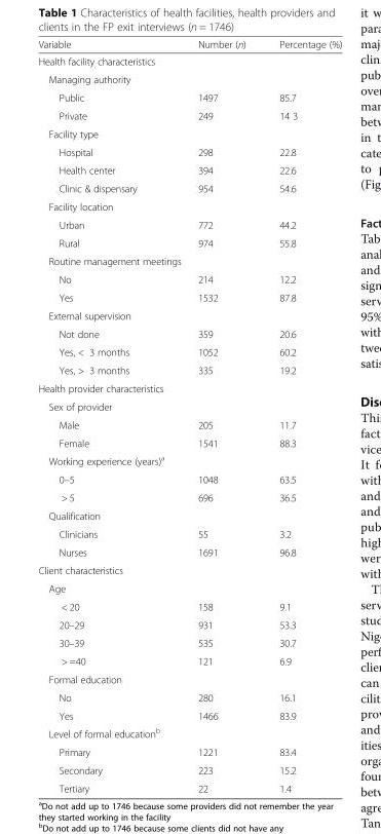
<table><thead><tr><td>Variable</td><td>Number (n)</td><td>Percentage (%)</td></tr></thead><tbody><tr><td colspan="3">Health facility characteristics</td></tr><tr><td colspan="3">Managing authority</td></tr><tr><td>Public</td><td>1497</td><td>85.7</td></tr><tr><td>Private</td><td>249</td><td>14 3</td></tr><tr><td colspan="3">Facility type</td></tr><tr><td>Hospital</td><td>298</td><td>22.8</td></tr><tr><td>Health center</td><td>394</td><td>22.6</td></tr><tr><td>Clinic &amp; dispensary</td><td>954</td><td>54.6</td></tr><tr><td colspan="3">Facility location</td></tr><tr><td>Urban</td><td>772</td><td>44.2</td></tr><tr><td>Rural</td><td>974</td><td>55.8</td></tr><tr><td colspan="3">Routine management meetings</td></tr><tr><td>No</td><td>214</td><td>12.2</td></tr><tr><td>Yes</td><td>1532</td><td>87.8</td></tr><tr><td colspan="3">External supervision</td></tr><tr><td>Not done</td><td>359</td><td>20.6</td></tr><tr><td>Yes, &lt; 3 months</td><td>1052</td><td>60.2</td></tr><tr><td>Yes, &gt; 3 months</td><td>335</td><td>19.2</td></tr><tr><td colspan="3">Health provider characteristics</td></tr><tr><td colspan="3">Sex of provider</td></tr><tr><td>Male</td><td>205</td><td>11.7</td></tr><tr><td>Female</td><td>1541</td><td>88.3</td></tr><tr><td colspan="3">Working experience (years)<sup>a</sup></td></tr><tr><td>0–5</td><td>1048</td><td>63.5</td></tr><tr><td>&gt; 5</td><td>696</td><td>36.5</td></tr><tr><td colspan="3">Qualification</td></tr><tr><td>Clinicians</td><td>55</td><td>3.2</td></tr><tr><td>Nurses</td><td>1691</td><td>96.8</td></tr><tr><td colspan="3">Client characteristics</td></tr><tr><td colspan="3">Age</td></tr><tr><td>&lt; 20</td><td>158</td><td>9.1</td></tr><tr><td>20–29</td><td>931</td><td>53.3</td></tr><tr><td>30–39</td><td>535</td><td>30.7</td></tr><tr><td>&gt; =40</td><td>121</td><td>6.9</td></tr><tr><td colspan="3">Formal education</td></tr><tr><td>No</td><td>280</td><td>16.1</td></tr><tr><td>Yes</td><td>1466</td><td>83.9</td></tr><tr><td colspan="3">Level of formal education<sup>b</sup></td></tr><tr><td>Primary</td><td>1221</td><td>83.4</td></tr><tr><td>Secondary</td><td>223</td><td>15.2</td></tr><tr><td>Tertiary</td><td>22</td><td>1.4</td></tr></tbody></table>